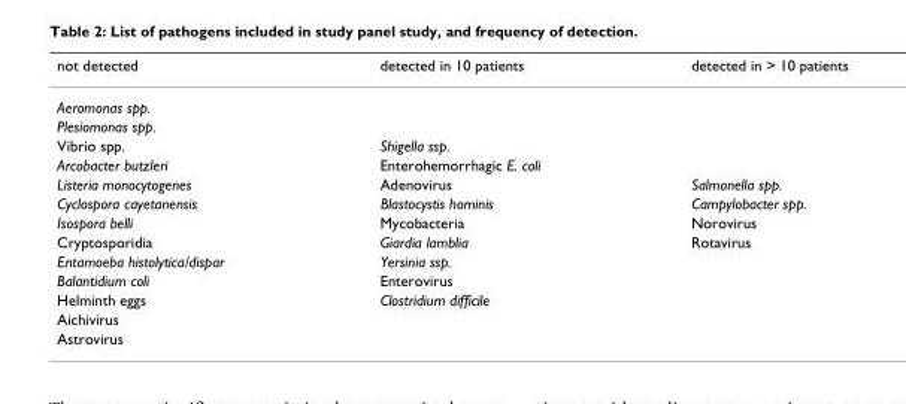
<table><thead><tr><td>not detected</td><td>detected in 10 patients</td><td>detected in &gt; 10 patients</td></tr></thead><tbody><tr><td colspan="3">Aeromonas spp.</td></tr><tr><td colspan="3">Plesiomonas spp.</td></tr><tr><td>Vibrio spp.</td><td>Shigella ssp.</td><td></td></tr><tr><td>Arcobacter butzleri</td><td>Enterohemorrhagic E. coli</td><td></td></tr><tr><td>Listeria monocytogenes</td><td>Adenovirus</td><td>Salmonella spp.</td></tr><tr><td>Cyclospora cayetanensis</td><td>Blastocystis hominis</td><td>Campylobacter spp.</td></tr><tr><td>Isospora belli</td><td>Mycobacteria</td><td>Norovirus</td></tr><tr><td>Cryptosporidia</td><td>Giardia lamblia</td><td>Rotavirus</td></tr><tr><td>Entamoeba histolytica/dispar</td><td>Yersinia ssp.</td><td></td></tr><tr><td>Balantidium coli</td><td>Enterovirus</td><td></td></tr><tr><td>Helminth eggs</td><td>Clostridium difficile</td><td></td></tr><tr><td colspan="3">Aichivirus</td></tr><tr><td>Astrovirus</td><td></td><td></td></tr></tbody></table>